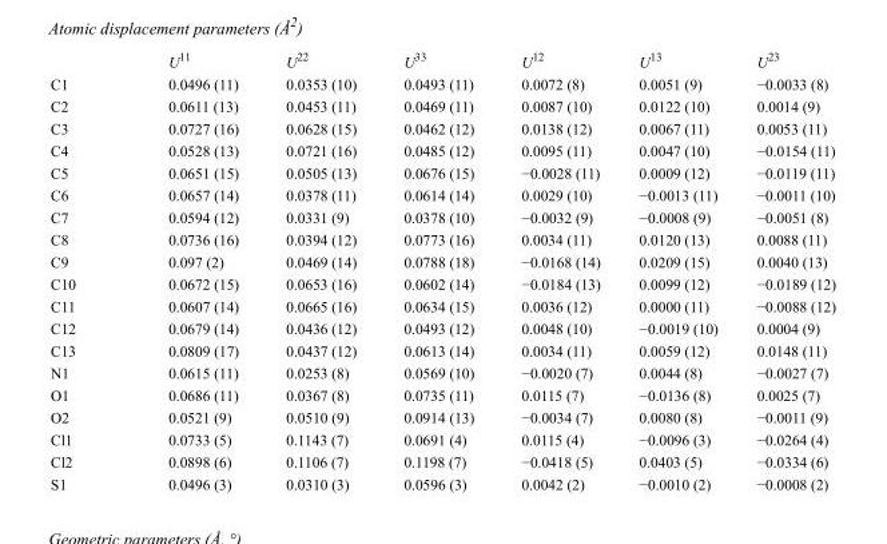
<table><thead><tr><td></td><td>U<sup>11</sup></td><td>U<sup>22</sup></td><td>U<sup>33</sup></td><td>U<sup>12</sup></td><td>U<sup>13</sup></td><td>U<sup>23</sup></td></tr></thead><tbody><tr><td>C1</td><td>0.0496 (11)</td><td>0.0353 (10)</td><td>0.0493 (11)</td><td>0.0072 (8)</td><td>0.0051 (9)</td><td>−0.0033 (8)</td></tr><tr><td>C2</td><td>0.0611 (13)</td><td>0.0453 (11)</td><td>0.0469 (11)</td><td>0.0087 (10)</td><td>0.0122 (10)</td><td>0.0014 (9)</td></tr><tr><td>C3</td><td>0.0727 (16)</td><td>0.0628 (15)</td><td>0.0462 (12)</td><td>0.0138 (12)</td><td>0.0067 (11)</td><td>0.0053 (11)</td></tr><tr><td>C4</td><td>0.0528 (13)</td><td>0.0721 (16)</td><td>0.0485 (12)</td><td>0.0095 (11)</td><td>0.0047 (10)</td><td>−0.0154 (11)</td></tr><tr><td>C5</td><td>0.0651 (15)</td><td>0.0505 (13)</td><td>0.0676 (15)</td><td>−0.0028 (11)</td><td>0.0009 (12)</td><td>−0.0119 (11)</td></tr><tr><td>C6</td><td>0.0657 (14)</td><td>0.0378 (11)</td><td>0.0614 (14)</td><td>0.0029 (10)</td><td>−0.0013 (11)</td><td>−0.0011 (10)</td></tr><tr><td>C7</td><td>0.0594 (12)</td><td>0.0331 (9)</td><td>0.0378 (10)</td><td>−0.0032 (9)</td><td>−0.0008 (9)</td><td>−0.0051 (8)</td></tr><tr><td>C8</td><td>0.0736 (16)</td><td>0.0394 (12)</td><td>0.0773 (16)</td><td>0.0034 (11)</td><td>0.0120 (13)</td><td>0.0088 (11)</td></tr><tr><td>C9</td><td>0.097 (2)</td><td>0.0469 (14)</td><td>0.0788 (18)</td><td>−0.0168 (14)</td><td>0.0209 (15)</td><td>0.0040 (13)</td></tr><tr><td>C10</td><td>0.0672 (15)</td><td>0.0653 (16)</td><td>0.0602 (14)</td><td>−0.0184 (13)</td><td>0.0099 (12)</td><td>−0.0189 (12)</td></tr><tr><td>C11</td><td>0.0607 (14)</td><td>0.0665 (16)</td><td>0.0634 (15)</td><td>0.0036 (12)</td><td>0.0000 (11)</td><td>−0.0088 (12)</td></tr><tr><td>C12</td><td>0.0679 (14)</td><td>0.0436 (12)</td><td>0.0493 (12)</td><td>0.0048 (10)</td><td>−0.0019 (10)</td><td>0.0004 (9)</td></tr><tr><td>C13</td><td>0.0809 (17)</td><td>0.0437 (12)</td><td>0.0613 (14)</td><td>0.0034 (11)</td><td>0.0059 (12)</td><td>0.0148 (11)</td></tr><tr><td>N1</td><td>0.0615 (11)</td><td>0.0253 (8)</td><td>0.0569 (10)</td><td>−0.0020 (7)</td><td>0.0044 (8)</td><td>−0.0027 (7)</td></tr><tr><td>O1</td><td>0.0686 (11)</td><td>0.0367 (8)</td><td>0.0735 (11)</td><td>0.0115 (7)</td><td>−0.0136 (8)</td><td>0.0025 (7)</td></tr><tr><td>O2</td><td>0.0521 (9)</td><td>0.0510 (9)</td><td>0.0914 (13)</td><td>−0.0034 (7)</td><td>0.0080 (8)</td><td>−0.0011 (9)</td></tr><tr><td>Cl1</td><td>0.0733 (5)</td><td>0.1143 (7)</td><td>0.0691 (4)</td><td>0.0115 (4)</td><td>−0.0096 (3)</td><td>−0.0264 (4)</td></tr><tr><td>Cl2</td><td>0.0898 (6)</td><td>0.1106 (7)</td><td>0.1198 (7)</td><td>−0.0418 (5)</td><td>0.0403 (5)</td><td>−0.0334 (6)</td></tr><tr><td>S1</td><td>0.0496 (3)</td><td>0.0310 (3)</td><td>0.0596 (3)</td><td>0.0042 (2)</td><td>−0.0010 (2)</td><td>−0.0008 (2)</td></tr></tbody></table>